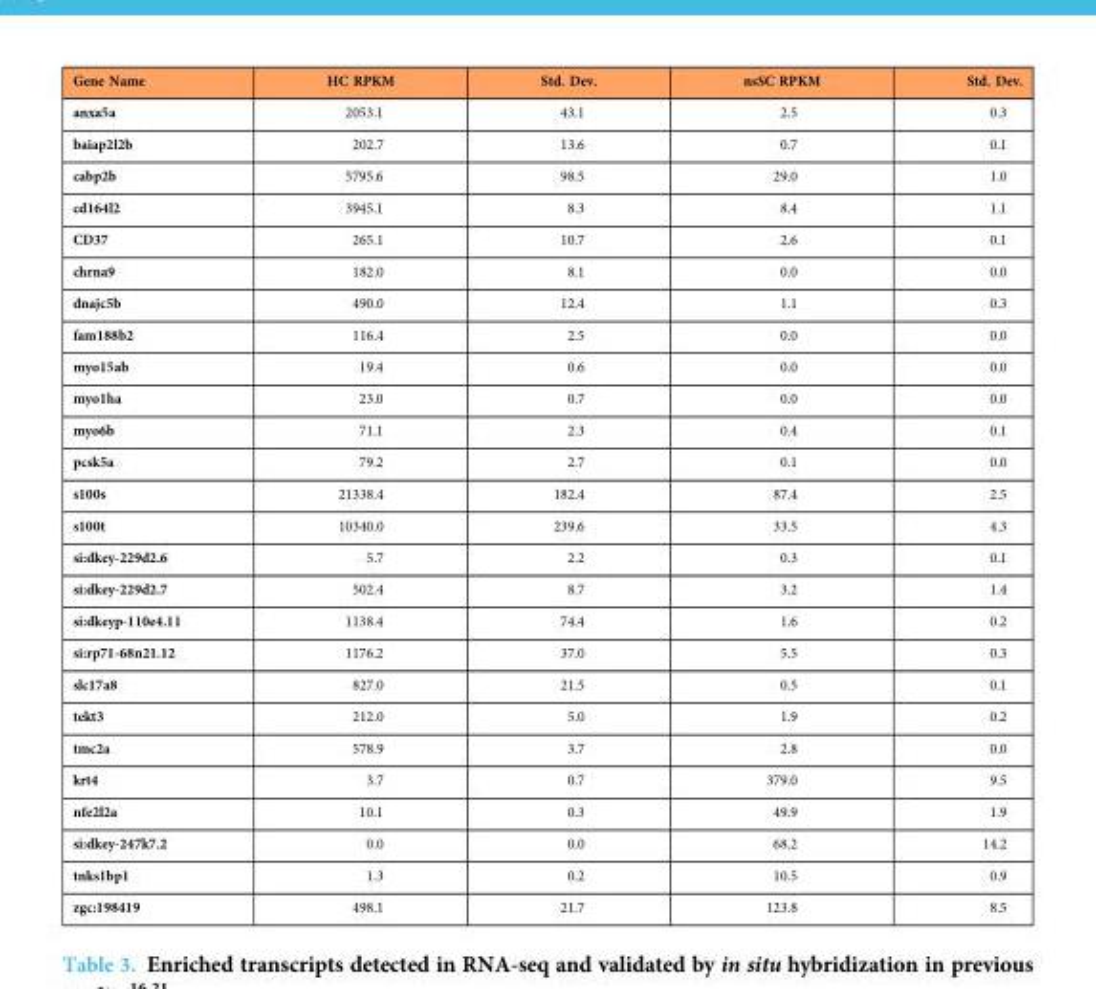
<table><thead><tr><td>Gene Name</td><td>HC RPKM</td><td>Std. Dev.</td><td>nsSC RPKM</td><td>Std. Dev.</td></tr></thead><tbody><tr><td>anxa5a</td><td>2053.1</td><td>43.1</td><td>2.5</td><td>0.3</td></tr><tr><td>baiap2l2b</td><td>202.7</td><td>13.6</td><td>0.7</td><td>0.1</td></tr><tr><td>cabp2b</td><td>5795.6</td><td>98.5</td><td>29.0</td><td>1.0</td></tr><tr><td>cd164l2</td><td>3945.1</td><td>8.3</td><td>8.4</td><td>1.1</td></tr><tr><td>CD37</td><td>265.1</td><td>10.7</td><td>2.6</td><td>0.1</td></tr><tr><td>chrna9</td><td>182.0</td><td>8.1</td><td>0.0</td><td>0.0</td></tr><tr><td>dnajc5b</td><td>490.0</td><td>12.4</td><td>1.1</td><td>0.3</td></tr><tr><td>fam188b2</td><td>116.4</td><td>2.5</td><td>0.0</td><td>0.0</td></tr><tr><td>myo15ab</td><td>19.4</td><td>0.6</td><td>0.0</td><td>0.0</td></tr><tr><td>myo1ha</td><td>23.0</td><td>0.7</td><td>0.0</td><td>0.0</td></tr><tr><td>myo6b</td><td>71.1</td><td>2.3</td><td>0.4</td><td>0.1</td></tr><tr><td>pcsk5a</td><td>79.2</td><td>2.7</td><td>0.1</td><td>0.0</td></tr><tr><td>s100s</td><td>21338.4</td><td>182.4</td><td>87.4</td><td>2.5</td></tr><tr><td>s100t</td><td>10340.0</td><td>239.6</td><td>33.5</td><td>4.3</td></tr><tr><td>si:dkey-229d2.6</td><td>5.7</td><td>2.2</td><td>0.3</td><td>0.1</td></tr><tr><td>si:dkey-229d2.7</td><td>502.4</td><td>8.7</td><td>3.2</td><td>1.4</td></tr><tr><td>si:dkeyp-110e4.11</td><td>1138.4</td><td>74.4</td><td>1.6</td><td>0.2</td></tr><tr><td>si:rp71-68n21.12</td><td>1176.2</td><td>37.0</td><td>5.5</td><td>0.3</td></tr><tr><td>slc17a8</td><td>827.0</td><td>21.5</td><td>0.5</td><td>0.1</td></tr><tr><td>tekt3</td><td>212.0</td><td>5.0</td><td>1.9</td><td>0.2</td></tr><tr><td>tmc2a</td><td>578.9</td><td>3.7</td><td>2.8</td><td>0.0</td></tr><tr><td>krt4</td><td>3.7</td><td>0.7</td><td>379.0</td><td>9.5</td></tr><tr><td>nfe2l2a</td><td>10.1</td><td>0.3</td><td>49.9</td><td>1.9</td></tr><tr><td>si:dkey-247k7.2</td><td>0.0</td><td>0.0</td><td>68.2</td><td>14.2</td></tr><tr><td>tnks1bp1</td><td>1.3</td><td>0.2</td><td>10.5</td><td>0.9</td></tr><tr><td>zgc:198419</td><td>498.1</td><td>21.7</td><td>123.8</td><td>8.5</td></tr></tbody></table>